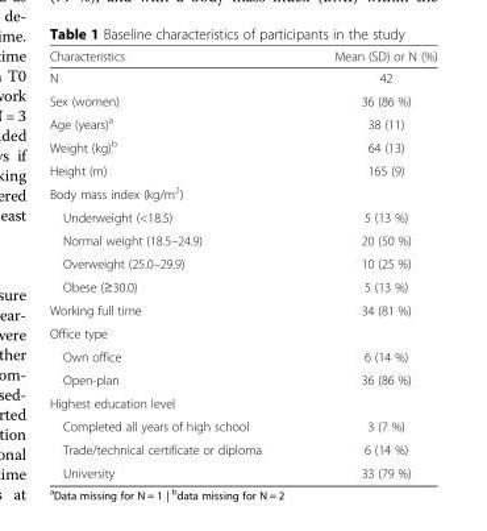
<table><thead><tr><td>Characteristics</td><td>Mean (SD) or N (%)</td></tr></thead><tbody><tr><td>N</td><td>42</td></tr><tr><td>Sex (women)</td><td>36 (86 %)</td></tr><tr><td>Age (years)<sup>a</sup></td><td>38 (11)</td></tr><tr><td>Weight (kg)<sup>b</sup></td><td>64 (13)</td></tr><tr><td>Height (m)</td><td>165 (9)</td></tr><tr><td colspan="2">Body mass index (kg/m<sup>2</sup>)</td></tr><tr><td>Underweight (&lt;18.5)</td><td>5 (13 %)</td></tr><tr><td>Normal weight (18.5–24.9)</td><td>20 (50 %)</td></tr><tr><td>Overweight (25.0–29.9)</td><td>10 (25 %)</td></tr><tr><td>Obese (≥30.0)</td><td>5 (13 %)</td></tr><tr><td>Working full time</td><td>34 (81 %)</td></tr><tr><td colspan="2">Office type</td></tr><tr><td>Own office</td><td>6 (14 %)</td></tr><tr><td>Open-plan</td><td>36 (86 %)</td></tr><tr><td colspan="2">Highest education level</td></tr><tr><td>Completed all years of high school</td><td>3 (7 %)</td></tr><tr><td>Trade/technical certificate or diploma</td><td>6 (14 %)</td></tr><tr><td>University</td><td>33 (79 %)</td></tr></tbody></table>